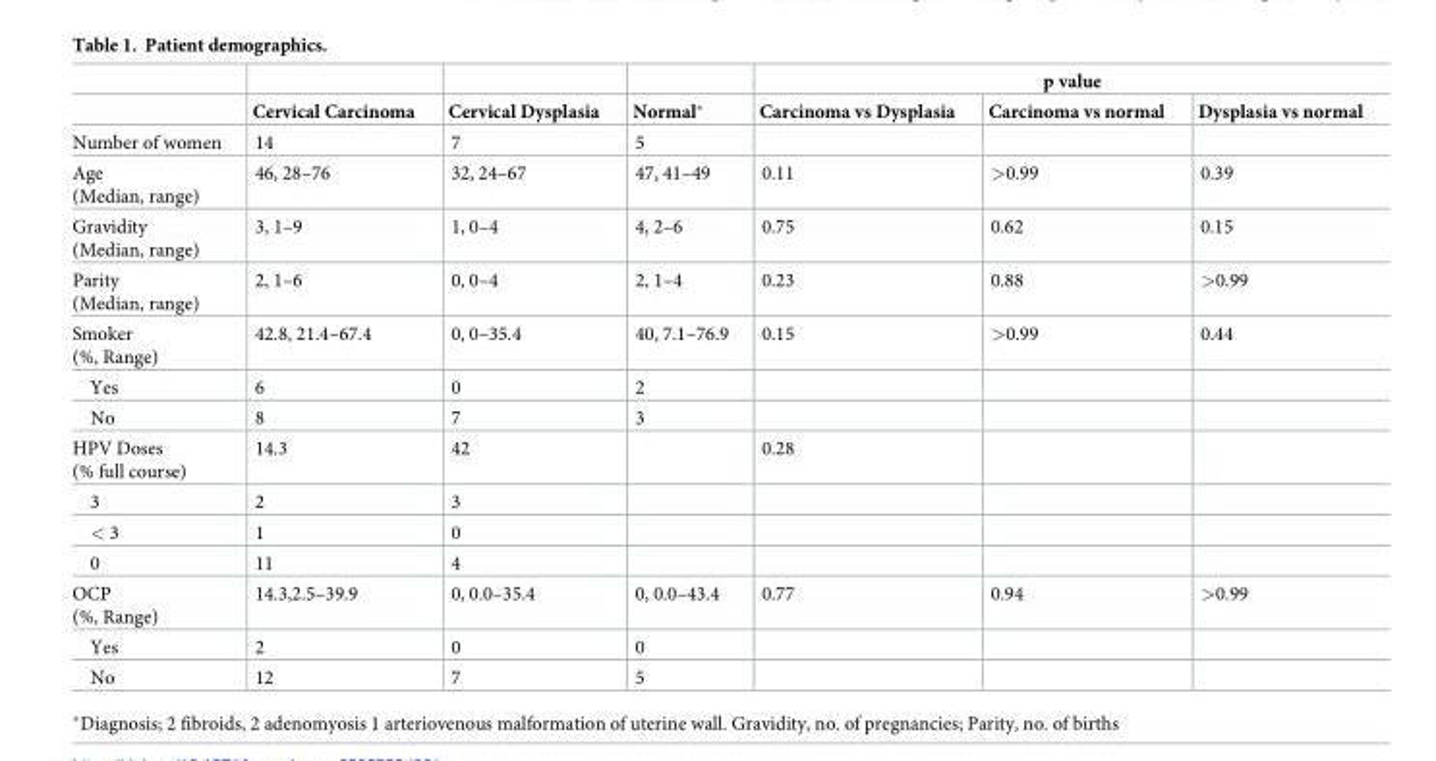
<table><thead><tr><td rowspan="2"></td><td rowspan="2">Cervical Carcinoma</td><td rowspan="2">Cervical Dysplasia</td><td rowspan="2">Normal*</td><td colspan="3">p value</td></tr><tr><td>Carcinoma vs Dysplasia</td><td>Carcinoma vs normal</td><td>Dysplasia vs normal</td></tr></thead><tbody><tr><td>Number of women</td><td>14</td><td>7</td><td>5</td><td></td><td></td><td></td></tr><tr><td>Age (Median, range)</td><td>46, 28–76</td><td>32, 24–67</td><td>47, 41–49</td><td>0.11</td><td>&gt;0.99</td><td>0.39</td></tr><tr><td>Gravidity (Median, range)</td><td>3, 1–9</td><td>1, 0–4</td><td>4, 2–6</td><td>0.75</td><td>0.62</td><td>0.15</td></tr><tr><td>Parity (Median, range)</td><td>2, 1–6</td><td>0, 0–4</td><td>2, 1–4</td><td>0.23</td><td>0.88</td><td>&gt;0.99</td></tr><tr><td>Smoker (%, Range)</td><td>42.8, 21.4–67.4</td><td>0, 0–35.4</td><td>40, 7.1–76.9</td><td>0.15</td><td>&gt;0.99</td><td>0.44</td></tr><tr><td>Yes</td><td>6</td><td>0</td><td>2</td><td></td><td></td><td></td></tr><tr><td>No</td><td>8</td><td>7</td><td>3</td><td></td><td></td><td></td></tr><tr><td>HPV Doses (% full course)</td><td>14.3</td><td>42</td><td></td><td>0.28</td><td></td><td></td></tr><tr><td>3</td><td>2</td><td>3</td><td></td><td></td><td></td><td></td></tr><tr><td>&lt; 3</td><td>1</td><td>0</td><td></td><td></td><td></td><td></td></tr><tr><td>0</td><td>11</td><td>4</td><td></td><td></td><td></td><td></td></tr><tr><td>OCP (%, Range)</td><td>14.3,2.5–39.9</td><td>0, 0.0–35.4</td><td>0, 0.0–43.4</td><td>0.77</td><td>0.94</td><td>&gt;0.99</td></tr><tr><td>Yes</td><td>2</td><td>0</td><td>0</td><td></td><td></td><td></td></tr><tr><td>No</td><td>12</td><td>7</td><td>5</td><td></td><td></td><td></td></tr></tbody></table>